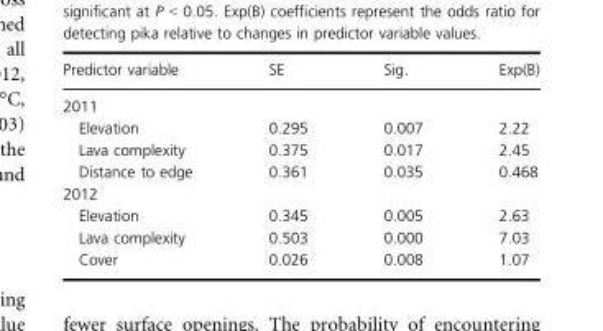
<table><thead><tr><td>Predictor variable</td><td>SE</td><td>Sig.</td><td>Exp(B)</td></tr></thead><tbody><tr><td colspan="4">2011</td></tr><tr><td>Elevation</td><td>0.295</td><td>0.007</td><td>2.22</td></tr><tr><td>Lava complexity</td><td>0.375</td><td>0.017</td><td>2.45</td></tr><tr><td>Distance to edge</td><td>0.361</td><td>0.035</td><td>0.468</td></tr><tr><td colspan="4">2012</td></tr><tr><td>Elevation</td><td>0.345</td><td>0.005</td><td>2.63</td></tr><tr><td>Lava complexity</td><td>0.503</td><td>0.000</td><td>7.03</td></tr><tr><td>Cover</td><td>0.026</td><td>0.008</td><td>1.07</td></tr></tbody></table>